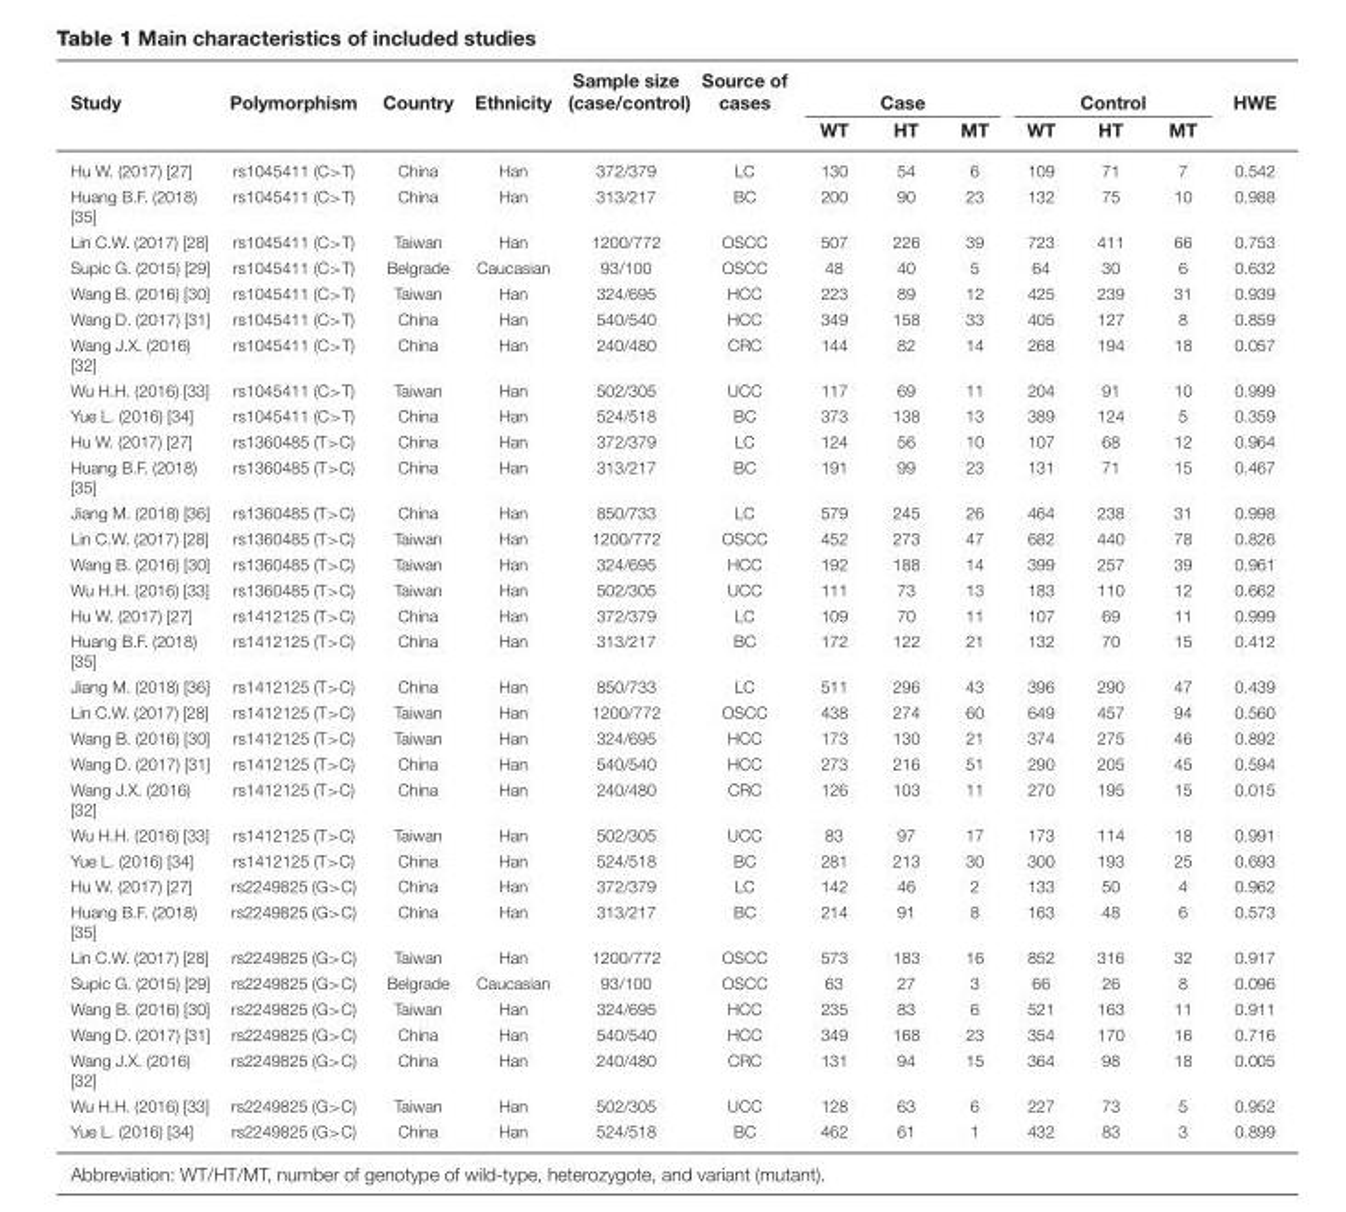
<table><thead><tr><td rowspan="2">Study</td><td rowspan="2">Polymorphism</td><td rowspan="2">Country</td><td rowspan="2">Ethnicity</td><td rowspan="2">Sample size (case/control)</td><td rowspan="2">Source of cases</td><td colspan="3">Case</td><td colspan="3">Control</td><td rowspan="2">HWE</td></tr><tr><td>WT</td><td>HT</td><td>MT</td><td>WT</td><td>HT</td><td>MT</td></tr></thead><tbody><tr><td>Hu W. (2017) [27]</td><td>rs1045411 (C&gt;T)</td><td>China</td><td>Han</td><td>372/379</td><td>LC</td><td>130</td><td>54</td><td>6</td><td>109</td><td>71</td><td>7</td><td>0.542</td></tr><tr><td>Huang B.F. (2018) [35]</td><td>rs1045411 (C&gt;T)</td><td>China</td><td>Han</td><td>313/217</td><td>BC</td><td>200</td><td>90</td><td>23</td><td>132</td><td>75</td><td>10</td><td>0.988</td></tr><tr><td>Lin C.W. (2017) [28]</td><td>rs1045411 (C&gt;T)</td><td>Taiwan</td><td>Han</td><td>1200/772</td><td>OSCC</td><td>507</td><td>226</td><td>39</td><td>723</td><td>411</td><td>66</td><td>0.753</td></tr><tr><td>Supic G. (2015) [29]</td><td>rs1045411 (C&gt;T)</td><td>Belgrade</td><td>Caucasian</td><td>93/100</td><td>OSCC</td><td>48</td><td>40</td><td>5</td><td>64</td><td>30</td><td>6</td><td>0.632</td></tr><tr><td>Wang B. (2016) [30]</td><td>rs1045411 (C&gt;T)</td><td>Taiwan</td><td>Han</td><td>324/695</td><td>HCC</td><td>223</td><td>89</td><td>12</td><td>425</td><td>239</td><td>31</td><td>0.939</td></tr><tr><td>Wang D. (2017) [31]</td><td>rs1045411 (C&gt;T)</td><td>China</td><td>Han</td><td>540/540</td><td>HCC</td><td>349</td><td>158</td><td>33</td><td>405</td><td>127</td><td>8</td><td>0.859</td></tr><tr><td>Wang J.X. (2016) [32]</td><td>rs1045411 (C&gt;T)</td><td>China</td><td>Han</td><td>240/480</td><td>CRC</td><td>144</td><td>82</td><td>14</td><td>268</td><td>194</td><td>18</td><td>0.057</td></tr><tr><td>Wu H.H. (2016) [33]</td><td>rs1045411 (C&gt;T)</td><td>Taiwan</td><td>Han</td><td>502/305</td><td>UCC</td><td>117</td><td>69</td><td>11</td><td>204</td><td>91</td><td>10</td><td>0.999</td></tr><tr><td>Yue L. (2016) [34]</td><td>rs1045411 (C&gt;T)</td><td>China</td><td>Han</td><td>524/518</td><td>BC</td><td>373</td><td>138</td><td>13</td><td>389</td><td>124</td><td>5</td><td>0.359</td></tr><tr><td>Hu W. (2017) [27]</td><td>rs1360485 (T&gt;C)</td><td>China</td><td>Han</td><td>372/379</td><td>LC</td><td>124</td><td>56</td><td>10</td><td>107</td><td>68</td><td>12</td><td>0.964</td></tr><tr><td>Huang B.F. (2018) [35]</td><td>rs1360485 (T&gt;C)</td><td>China</td><td>Han</td><td>313/217</td><td>BC</td><td>191</td><td>99</td><td>23</td><td>131</td><td>71</td><td>15</td><td>0.467</td></tr><tr><td>Jiang M. (2018) [36]</td><td>rs1360485 (T&gt;C)</td><td>China</td><td>Han</td><td>850/733</td><td>LC</td><td>579</td><td>245</td><td>26</td><td>464</td><td>238</td><td>31</td><td>0.998</td></tr><tr><td>Lin C.W. (2017) [28]</td><td>rs1360485 (T&gt;C)</td><td>Taiwan</td><td>Han</td><td>1200/772</td><td>OSCC</td><td>452</td><td>273</td><td>47</td><td>682</td><td>440</td><td>78</td><td>0.826</td></tr><tr><td>Wang B. (2016) [30]</td><td>rs1360485 (T&gt;C)</td><td>Taiwan</td><td>Han</td><td>324/695</td><td>HCC</td><td>192</td><td>188</td><td>14</td><td>399</td><td>257</td><td>39</td><td>0.961</td></tr><tr><td>Wu H.H. (2016) [33]</td><td>rs1360485 (T&gt;C)</td><td>Taiwan</td><td>Han</td><td>502/305</td><td>UCC</td><td>111</td><td>73</td><td>13</td><td>183</td><td>110</td><td>12</td><td>0.662</td></tr><tr><td>Hu W. (2017) [27]</td><td>rs1412125 (T&gt;C)</td><td>China</td><td>Han</td><td>372/379</td><td>LC</td><td>109</td><td>70</td><td>11</td><td>107</td><td>69</td><td>11</td><td>0.999</td></tr><tr><td>Huang B.F. (2018) [35]</td><td>rs1412125 (T&gt;C)</td><td>China</td><td>Han</td><td>313/217</td><td>BC</td><td>172</td><td>122</td><td>21</td><td>132</td><td>70</td><td>15</td><td>0.412</td></tr><tr><td>Jiang M. (2018) [36]</td><td>rs1412125 (T&gt;C)</td><td>China</td><td>Han</td><td>850/733</td><td>LC</td><td>511</td><td>296</td><td>43</td><td>396</td><td>290</td><td>47</td><td>0.439</td></tr><tr><td>Lin C.W. (2017) [28]</td><td>rs1412125 (T&gt;C)</td><td>Taiwan</td><td>Han</td><td>1200/772</td><td>OSCC</td><td>438</td><td>274</td><td>60</td><td>649</td><td>457</td><td>94</td><td>0.560</td></tr><tr><td>Wang B. (2016) [30]</td><td>rs1412125 (T&gt;C)</td><td>Taiwan</td><td>Han</td><td>324/695</td><td>HCC</td><td>173</td><td>130</td><td>21</td><td>374</td><td>275</td><td>46</td><td>0.892</td></tr><tr><td>Wang D. (2017) [31]</td><td>rs1412125 (T&gt;C)</td><td>China</td><td>Han</td><td>540/540</td><td>HCC</td><td>273</td><td>216</td><td>51</td><td>290</td><td>205</td><td>45</td><td>0.594</td></tr><tr><td>Wang J.X. (2016) [32]</td><td>rs1412125 (T&gt;C)</td><td>China</td><td>Han</td><td>240/480</td><td>CRC</td><td>126</td><td>103</td><td>11</td><td>270</td><td>195</td><td>15</td><td>0.015</td></tr><tr><td>Wu H.H. (2016) [33]</td><td>rs1412125 (T&gt;C)</td><td>Taiwan</td><td>Han</td><td>502/305</td><td>UCC</td><td>83</td><td>97</td><td>17</td><td>173</td><td>114</td><td>18</td><td>0.991</td></tr><tr><td>Yue L. (2016) [34]</td><td>rs1412125 (T&gt;C)</td><td>China</td><td>Han</td><td>524/518</td><td>BC</td><td>281</td><td>213</td><td>30</td><td>300</td><td>193</td><td>25</td><td>0.693</td></tr><tr><td>Hu W. (2017) [27]</td><td>rs2249825 (G&gt;C)</td><td>China</td><td>Han</td><td>372/379</td><td>LC</td><td>142</td><td>46</td><td>2</td><td>133</td><td>50</td><td>4</td><td>0.962</td></tr><tr><td>Huang B.F. (2018) [35]</td><td>rs2249825 (G&gt;C)</td><td>China</td><td>Han</td><td>313/217</td><td>BC</td><td>214</td><td>91</td><td>8</td><td>163</td><td>48</td><td>6</td><td>0.573</td></tr><tr><td>Lin C.W. (2017) [28]</td><td>rs2249825 (G&gt;C)</td><td>Taiwan</td><td>Han</td><td>1200/772</td><td>OSCC</td><td>573</td><td>183</td><td>16</td><td>852</td><td>316</td><td>32</td><td>0.917</td></tr><tr><td>Supic G. (2015) [29]</td><td>rs2249825 (G&gt;C)</td><td>Belgrade</td><td>Caucasian</td><td>93/100</td><td>OSCC</td><td>63</td><td>27</td><td>3</td><td>66</td><td>26</td><td>8</td><td>0.096</td></tr><tr><td>Wang B. (2016) [30]</td><td>rs2249825 (G&gt;C)</td><td>Taiwan</td><td>Han</td><td>324/695</td><td>HCC</td><td>235</td><td>83</td><td>6</td><td>521</td><td>163</td><td>11</td><td>0.911</td></tr><tr><td>Wang D. (2017) [31]</td><td>rs2249825 (G&gt;C)</td><td>China</td><td>Han</td><td>540/540</td><td>HCC</td><td>349</td><td>168</td><td>23</td><td>354</td><td>170</td><td>16</td><td>0.716</td></tr><tr><td>Wang J.X. (2016) [32]</td><td>rs2249825 (G&gt;C)</td><td>China</td><td>Han</td><td>240/480</td><td>CRC</td><td>131</td><td>94</td><td>15</td><td>364</td><td>98</td><td>18</td><td>0.005</td></tr><tr><td>Wu H.H. (2016) [33]</td><td>rs2249825 (G&gt;C)</td><td>Taiwan</td><td>Han</td><td>502/305</td><td>UCC</td><td>128</td><td>63</td><td>6</td><td>227</td><td>73</td><td>5</td><td>0.952</td></tr><tr><td>Yue L. (2016) [34]</td><td>rs2249825 (G&gt;C)</td><td>China</td><td>Han</td><td>524/518</td><td>BC</td><td>462</td><td>61</td><td>1</td><td>432</td><td>83</td><td>3</td><td>0.899</td></tr></tbody></table>